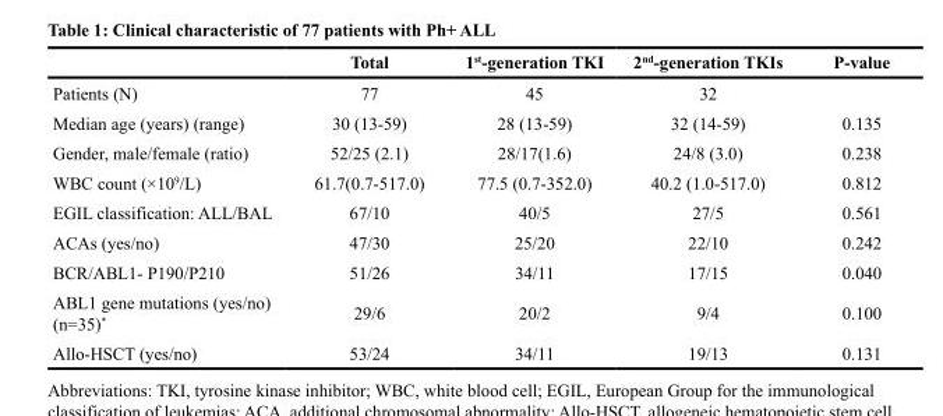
<table><thead><tr><td></td><td>Total</td><td>1<sup>st</sup>-generation TKI</td><td>2<sup>nd</sup>-generation TKIs</td><td>P-value</td></tr></thead><tbody><tr><td>Patients (N)</td><td>77</td><td>45</td><td>32</td><td></td></tr><tr><td>Median age (years) (range)</td><td>30 (13-59)</td><td>28 (13-59)</td><td>32 (14-59)</td><td>0.135</td></tr><tr><td>Gender, male/female (ratio)</td><td>52/25 (2.1)</td><td>28/17(1.6)</td><td>24/8 (3.0)</td><td>0.238</td></tr><tr><td>WBC count (×10<sup>9</sup>/L)</td><td>61.7(0.7-517.0)</td><td>77.5 (0.7-352.0)</td><td>40.2 (1.0-517.0)</td><td>0.812</td></tr><tr><td>EGIL classification: ALL/BAL</td><td>67/10</td><td>40/5</td><td>27/5</td><td>0.561</td></tr><tr><td>ACAs (yes/no)</td><td>47/30</td><td>25/20</td><td>22/10</td><td>0.242</td></tr><tr><td>BCR/ABL1- P190/P210</td><td>51/26</td><td>34/11</td><td>17/15</td><td>0.040</td></tr><tr><td>ABL1 gene mutations (yes/no) (n=35)*</td><td>29/6</td><td>20/2</td><td>9/4</td><td>0.100</td></tr><tr><td>Allo-HSCT (yes/no)</td><td>53/24</td><td>34/11</td><td>19/13</td><td>0.131</td></tr></tbody></table>